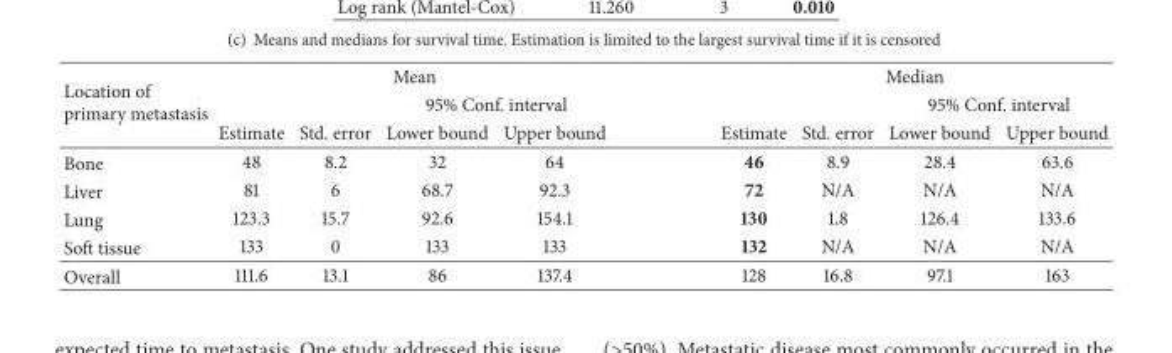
<table><thead><tr><td rowspan="3">Location of primary metastasis</td><td colspan="4">Mean</td><td colspan="4">Median</td></tr><tr><td rowspan="2">Estimate</td><td rowspan="2">Std. error</td><td colspan="2">95% Conf. interval</td><td rowspan="2">Estimate</td><td rowspan="2">Std. error</td><td colspan="2">95% Conf. interval</td></tr><tr><td>Lower bound</td><td>Upper bound</td><td>Lower bound</td><td>Upper bound</td></tr></thead><tbody><tr><td>Bone</td><td>48</td><td>8.2</td><td>32</td><td>64</td><td>46</td><td>8.9</td><td>28.4</td><td>63.6</td></tr><tr><td>Liver</td><td>81</td><td>6</td><td>68.7</td><td>92.3</td><td>72</td><td>N/A</td><td>N/A</td><td>N/A</td></tr><tr><td>Lung</td><td>123.3</td><td>15.7</td><td>92.6</td><td>154.1</td><td>130</td><td>1.8</td><td>126.4</td><td>133.6</td></tr><tr><td>Soft tissue</td><td>133</td><td>0</td><td>133</td><td>133</td><td>132</td><td>N/A</td><td>N/A</td><td>N/A</td></tr><tr><td>Overall</td><td>111.6</td><td>13.1</td><td>86</td><td>137.4</td><td>128</td><td>16.8</td><td>97.1</td><td>163</td></tr></tbody></table>